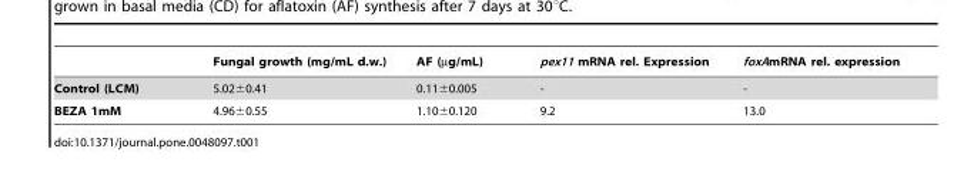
<table><thead><tr><td></td><td>Fungal growth (mg/mL d.w.)</td><td>AF (µg/mL)</td><td>pex11 mRNA rel. Expression</td><td>foxAmRNA rel. expression</td></tr></thead><tbody><tr><td>Control (LCM)</td><td>5.02±0.41</td><td>0.11±0.005</td><td>-</td><td>-</td></tr><tr><td>BEZA 1mM</td><td>4.96±0.55</td><td>1.10±0.120</td><td>9.2</td><td>13.0</td></tr></tbody></table>